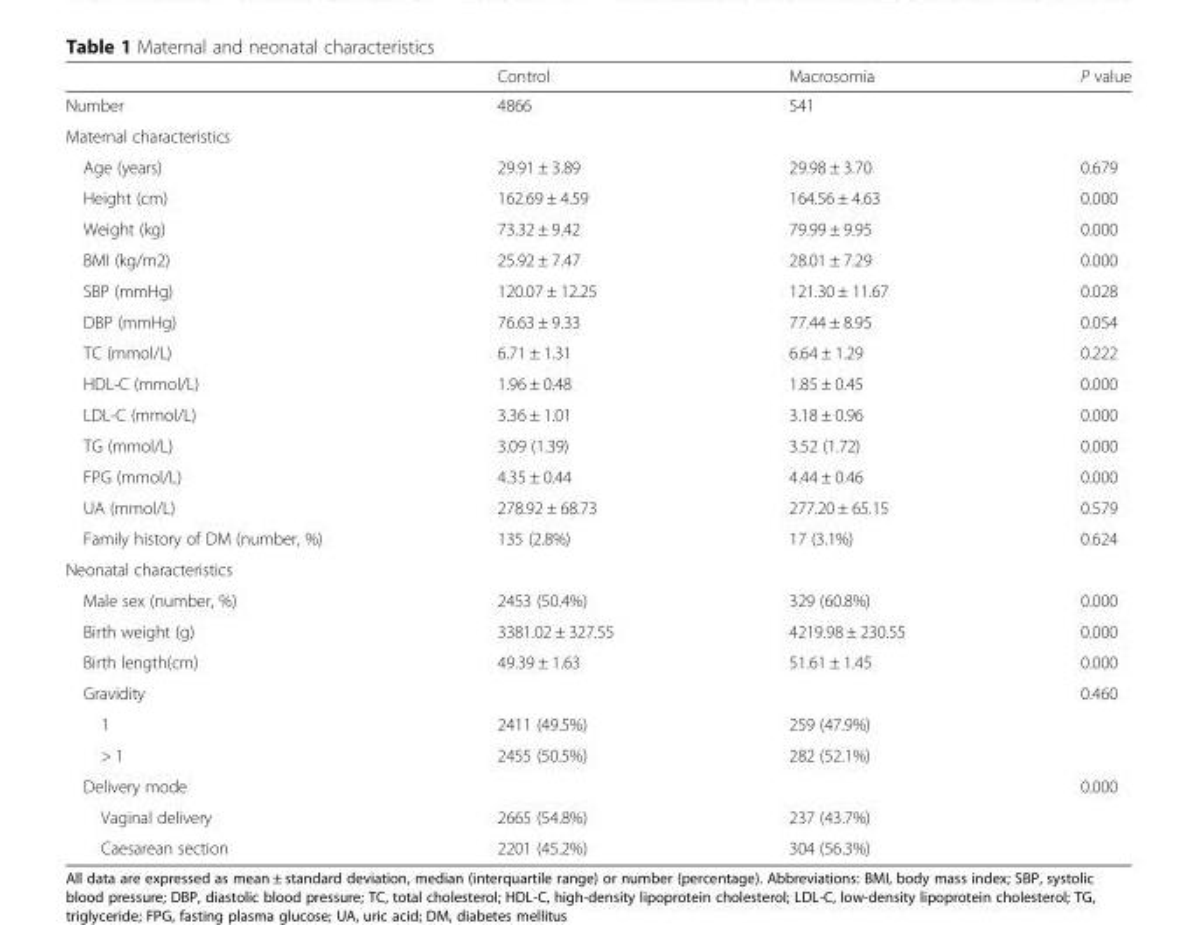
<table><thead><tr><td></td><td>Control</td><td>Macrosomia</td><td>P value</td></tr></thead><tbody><tr><td>Number</td><td>4866</td><td>541</td><td></td></tr><tr><td colspan="4">Maternal characteristics</td></tr><tr><td>Age (years)</td><td>29.91 ± 3.89</td><td>29.98 ± 3.70</td><td>0.679</td></tr><tr><td>Height (cm)</td><td>162.69 ± 4.59</td><td>164.56 ± 4.63</td><td>0.000</td></tr><tr><td>Weight (kg)</td><td>73.32 ± 9.42</td><td>79.99 ± 9.95</td><td>0.000</td></tr><tr><td>BMI (kg/m2)</td><td>25.92 ± 7.47</td><td>28.01 ± 7.29</td><td>0.000</td></tr><tr><td>SBP (mmHg)</td><td>120.07 ± 12.25</td><td>121.30 ± 11.67</td><td>0.028</td></tr><tr><td>DBP (mmHg)</td><td>76.63 ± 9.33</td><td>77.44 ± 8.95</td><td>0.054</td></tr><tr><td>TC (mmol/L)</td><td>6.71 ± 1.31</td><td>6.64 ± 1.29</td><td>0.222</td></tr><tr><td>HDL-C (mmol/L)</td><td>1.96 ± 0.48</td><td>1.85 ± 0.45</td><td>0.000</td></tr><tr><td>LDL-C (mmol/L)</td><td>3.36 ± 1.01</td><td>3.18 ± 0.96</td><td>0.000</td></tr><tr><td>TG (mmol/L)</td><td>3.09 (1.39)</td><td>3.52 (1.72)</td><td>0.000</td></tr><tr><td>FPG (mmol/L)</td><td>4.35 ± 0.44</td><td>4.44 ± 0.46</td><td>0.000</td></tr><tr><td>UA (mmol/L)</td><td>278.92 ± 68.73</td><td>277.20 ± 65.15</td><td>0.579</td></tr><tr><td>Family history of DM (number, %)</td><td>135 (2.8%)</td><td>17 (3.1%)</td><td>0.624</td></tr><tr><td colspan="4">Neonatal characteristics</td></tr><tr><td>Male sex (number, %)</td><td>2453 (50.4%)</td><td>329 (60.8%)</td><td>0.000</td></tr><tr><td>Birth weight (g)</td><td>3381.02 ± 327.55</td><td>4219.98 ± 230.55</td><td>0.000</td></tr><tr><td>Birth length(cm)</td><td>49.39 ± 1.63</td><td>51.61 ± 1.45</td><td>0.000</td></tr><tr><td>Gravidity</td><td></td><td></td><td>0.460</td></tr><tr><td>1</td><td>2411 (49.5%)</td><td>259 (47.9%)</td><td></td></tr><tr><td>&gt; 1</td><td>2455 (50.5%)</td><td>282 (52.1%)</td><td></td></tr><tr><td>Delivery mode</td><td></td><td></td><td>0.000</td></tr><tr><td>Vaginal delivery</td><td>2665 (54.8%)</td><td>237 (43.7%)</td><td></td></tr><tr><td>Caesarean section</td><td>2201 (45.2%)</td><td>304 (56.3%)</td><td></td></tr></tbody></table>